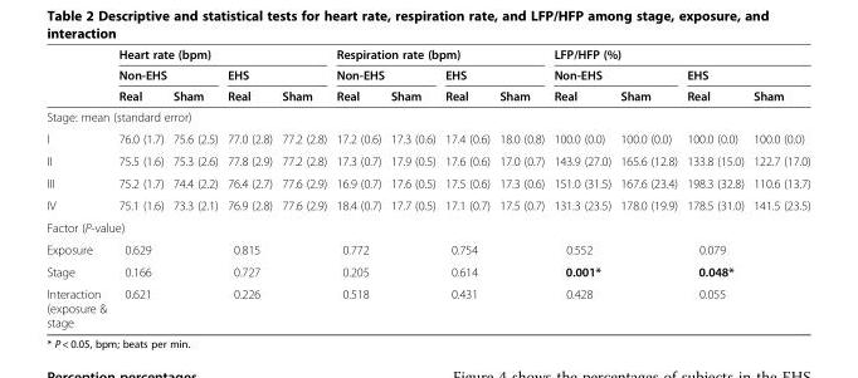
<table><thead><tr><td rowspan="3"></td><td colspan="4">Heart rate (bpm)</td><td colspan="4">Respiration rate (bpm)</td><td colspan="4">LFP/HFP (%)</td></tr><tr><td colspan="2">Non-EHS</td><td colspan="2">EHS</td><td colspan="2">Non-EHS</td><td colspan="2">EHS</td><td colspan="2">Non-EHS</td><td colspan="2">EHS</td></tr><tr><td>Real</td><td>Sham</td><td>Real</td><td>Sham</td><td>Real</td><td>Sham</td><td>Real</td><td>Sham</td><td>Real</td><td>Sham</td><td>Real</td><td>Sham</td></tr></thead><tbody><tr><td colspan="13">Stage: mean (standard error)</td></tr><tr><td>I</td><td>76.0 (1.7)</td><td>75.6 (2.5)</td><td>77.0 (2.8)</td><td>77.2 (2.8)</td><td>17.2 (0.6)</td><td>17.3 (0.6)</td><td>17.4 (0.6)</td><td>18.0 (0.8)</td><td>100.0 (0.0)</td><td>100.0 (0.0)</td><td>100.0 (0.0)</td><td>100.0 (0.0)</td></tr><tr><td>II</td><td>75.5 (1.6)</td><td>75.3 (2.6)</td><td>77.8 (2.9)</td><td>77.2 (2.8)</td><td>17.3 (0.7)</td><td>17.9 (0.5)</td><td>17.6 (0.6)</td><td>17.0 (0.7)</td><td>143.9 (27.0)</td><td>165.6 (12.8)</td><td>133.8 (15.0)</td><td>122.7 (17.0)</td></tr><tr><td>III</td><td>75.2 (1.7)</td><td>74.4 (2.2)</td><td>76.4 (2.7)</td><td>77.6 (2.9)</td><td>16.9 (0.7)</td><td>17.6 (0.5)</td><td>17.5 (0.6)</td><td>17.3 (0.6)</td><td>151.0 (31.5)</td><td>167.6 (23.4)</td><td>198.3 (32.8)</td><td>110.6 (13.7)</td></tr><tr><td>IV</td><td>75.1 (1.6)</td><td>73.3 (2.1)</td><td>76.9 (2.8)</td><td>77.6 (2.9)</td><td>18.4 (0.7)</td><td>17.7 (0.5)</td><td>17.1 (0.7)</td><td>17.5 (0.7)</td><td>131.3 (23.5)</td><td>178.0 (19.9)</td><td>178.5 (31.0)</td><td>141.5 (23.5)</td></tr><tr><td colspan="13">Factor (P-value)</td></tr><tr><td>Exposure</td><td colspan="2">0.629</td><td colspan="2">0.815</td><td colspan="2">0.772</td><td colspan="2">0.754</td><td colspan="2">0.552</td><td colspan="2">0.079</td></tr><tr><td>Stage</td><td colspan="2">0.166</td><td colspan="2">0.727</td><td colspan="2">0.205</td><td colspan="2">0.614</td><td colspan="2">0.001*</td><td colspan="2">0.048*</td></tr><tr><td>Interaction (exposure &amp; stage</td><td colspan="2">0.621</td><td colspan="2">0.226</td><td colspan="2">0.518</td><td colspan="2">0.431</td><td colspan="2">0.428</td><td colspan="2">0.055</td></tr></tbody></table>